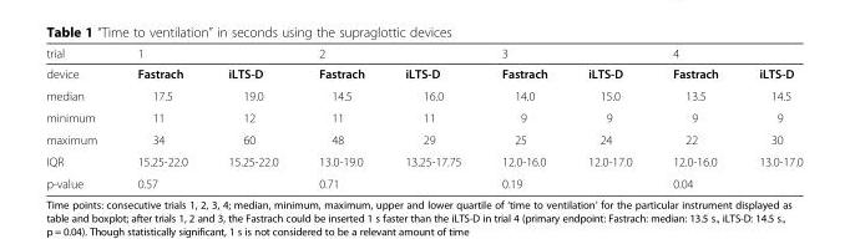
<table><thead><tr><td rowspan="2">trial device</td><td colspan="2">1</td><td colspan="2">2</td><td colspan="2">3</td><td colspan="2">4</td></tr><tr><td>Fastrach</td><td>iLTS-D</td><td>Fastrach</td><td>iLTS-D</td><td>Fastrach</td><td>iLTS-D</td><td>Fastrach</td><td>iLTS-D</td></tr></thead><tbody><tr><td>median</td><td>17.5</td><td>19.0</td><td>14.5</td><td>16.0</td><td>14.0</td><td>15.0</td><td>13.5</td><td>14.5</td></tr><tr><td>minimum</td><td>11</td><td>12</td><td>11</td><td>11</td><td>9</td><td>9</td><td>9</td><td>9</td></tr><tr><td>maximum</td><td>34</td><td>60</td><td>48</td><td>29</td><td>25</td><td>24</td><td>22</td><td>30</td></tr><tr><td>IQR</td><td>15.25-22.0</td><td>15.25-22.0</td><td>13.0-19.0</td><td>13.25-17.75</td><td>12.0-16.0</td><td>12.0-17.0</td><td>12.0-16.0</td><td>13.0-17.0</td></tr><tr><td>p-value</td><td colspan="2">0.57</td><td colspan="2">0.71</td><td colspan="2">0.19</td><td colspan="2">0.04</td></tr></tbody></table>